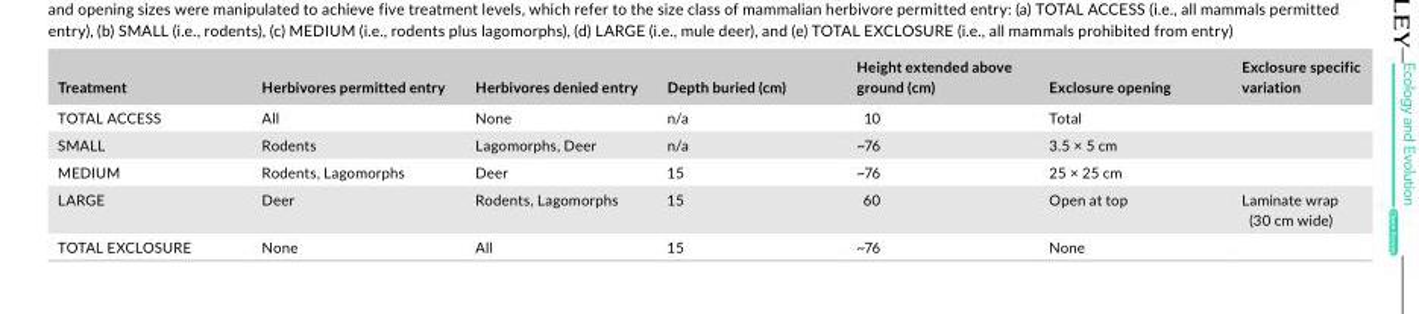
<table><thead><tr><td>Treatment</td><td>Herbivores permitted entry</td><td>Herbivores denied entry</td><td>Depth buried (cm)</td><td>Height extended above ground (cm)</td><td>Exclosure opening</td><td>Exclosure specific variation</td></tr></thead><tbody><tr><td>TOTAL ACCESS</td><td>All</td><td>None</td><td>n/a</td><td>10</td><td>Total</td><td></td></tr><tr><td>SMALL</td><td>Rodents</td><td>Lagomorphs, Deer</td><td>n/a</td><td>~76</td><td>3.5 × 5 cm</td><td></td></tr><tr><td>MEDIUM</td><td>Rodents, Lagomorphs</td><td>Deer</td><td>15</td><td>~76</td><td>25 × 25 cm</td><td></td></tr><tr><td>LARGE</td><td>Deer</td><td>Rodents, Lagomorphs</td><td>15</td><td>60</td><td>Open at top</td><td>Laminate wrap (30 cm wide)</td></tr><tr><td>TOTAL EXCLOSURE</td><td>None</td><td>All</td><td>15</td><td>~76</td><td>None</td><td></td></tr></tbody></table>